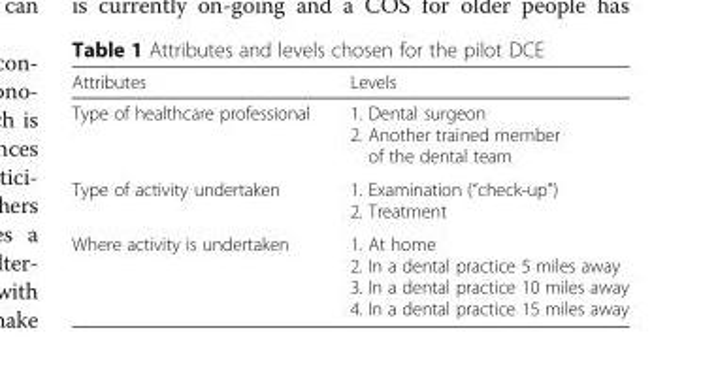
<table><thead><tr><td>Attributes</td><td>Levels</td></tr></thead><tbody><tr><td>Type of healthcare professional</td><td>1. Dental surgeon 2. Another trained member of the dental team</td></tr><tr><td>Type of activity undertaken</td><td>1. Examination (“check-up”) 2. Treatment</td></tr><tr><td>Where activity is undertaken</td><td>1. At home 2. In a dental practice 5 miles away 3. In a dental practice 10 miles away 4. In a dental practice 15 miles away</td></tr></tbody></table>